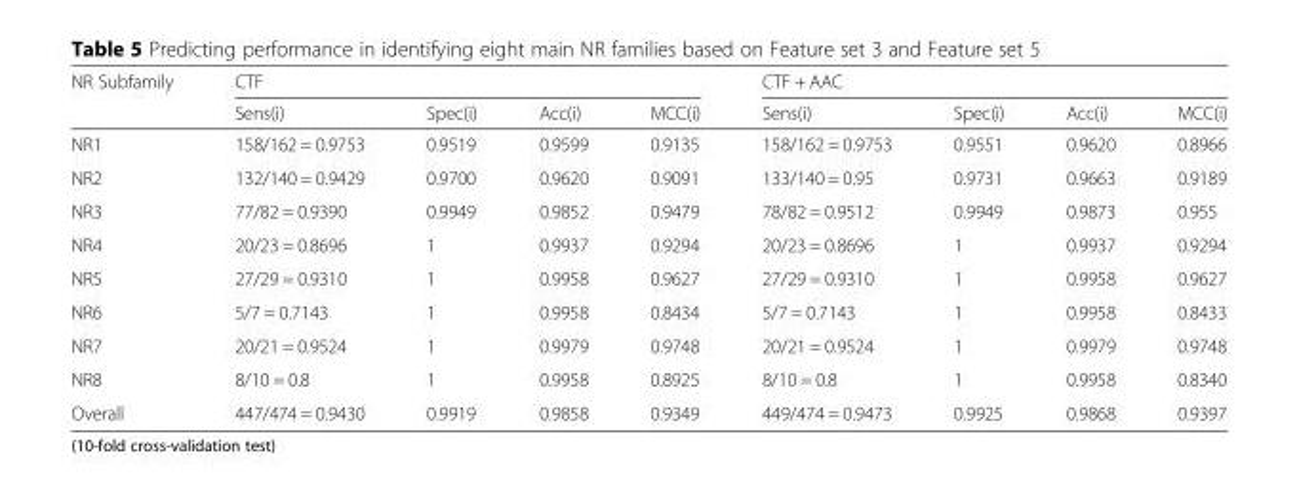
<table><thead><tr><td rowspan="2">NR Subfamily</td><td colspan="4">CTF</td><td colspan="4">CTF + AAC</td></tr><tr><td>Sens(i)</td><td>Spec(i)</td><td>Acc(i)</td><td>MCC(i)</td><td>Sens(i)</td><td>Spec(i)</td><td>Acc(i)</td><td>MCC(i)</td></tr></thead><tbody><tr><td>NR1</td><td>158/162 = 0.9753</td><td>0.9519</td><td>0.9599</td><td>0.9135</td><td>158/162 = 0.9753</td><td>0.9551</td><td>0.9620</td><td>0.8966</td></tr><tr><td>NR2</td><td>132/140 = 0.9429</td><td>0.9700</td><td>0.9620</td><td>0.9091</td><td>133/140 = 0.95</td><td>0.9731</td><td>0.9663</td><td>0.9189</td></tr><tr><td>NR3</td><td>77/82 = 0.9390</td><td>0.9949</td><td>0.9852</td><td>0.9479</td><td>78/82 = 0.9512</td><td>0.9949</td><td>0.9873</td><td>0.955</td></tr><tr><td>NR4</td><td>20/23 = 0.8696</td><td>1</td><td>0.9937</td><td>0.9294</td><td>20/23 = 0.8696</td><td>1</td><td>0.9937</td><td>0.9294</td></tr><tr><td>NR5</td><td>27/29 = 0.9310</td><td>1</td><td>0.9958</td><td>0.9627</td><td>27/29 = 0.9310</td><td>1</td><td>0.9958</td><td>0.9627</td></tr><tr><td>NR6</td><td>5/7 = 0.7143</td><td>1</td><td>0.9958</td><td>0.8434</td><td>5/7 = 0.7143</td><td>1</td><td>0.9958</td><td>0.8433</td></tr><tr><td>NR7</td><td>20/21 = 0.9524</td><td>1</td><td>0.9979</td><td>0.9748</td><td>20/21 = 0.9524</td><td>1</td><td>0.9979</td><td>0.9748</td></tr><tr><td>NR8</td><td>8/10 = 0.8</td><td>1</td><td>0.9958</td><td>0.8925</td><td>8/10 = 0.8</td><td>1</td><td>0.9958</td><td>0.8340</td></tr><tr><td>Overall</td><td>447/474 = 0.9430</td><td>0.9919</td><td>0.9858</td><td>0.9349</td><td>449/474 = 0.9473</td><td>0.9925</td><td>0.9868</td><td>0.9397</td></tr></tbody></table>